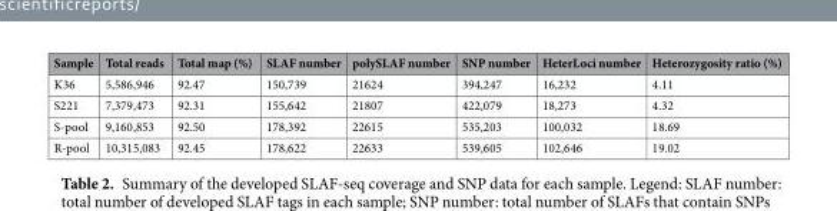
<table><thead><tr><td>Sample</td><td>Total reads</td><td>Total map (%)</td><td>SLAF number</td><td>polySLAF number</td><td>SNP number</td><td>HeterLoci number</td><td>Heterozygosity ratio (%)</td></tr></thead><tbody><tr><td>K36</td><td>5,586,946</td><td>92.47</td><td>150,739</td><td>21624</td><td>394,247</td><td>16,232</td><td>4.11</td></tr><tr><td>S221</td><td>7,379,473</td><td>92.31</td><td>155,642</td><td>21807</td><td>422,079</td><td>18,273</td><td>4.32</td></tr><tr><td>S-pool</td><td>9,160,853</td><td>92.50</td><td>178,392</td><td>22615</td><td>535,203</td><td>100,032</td><td>18.69</td></tr><tr><td>R-pool</td><td>10,315,083</td><td>92.45</td><td>178,622</td><td>22633</td><td>539,605</td><td>102,646</td><td>19.02</td></tr></tbody></table>